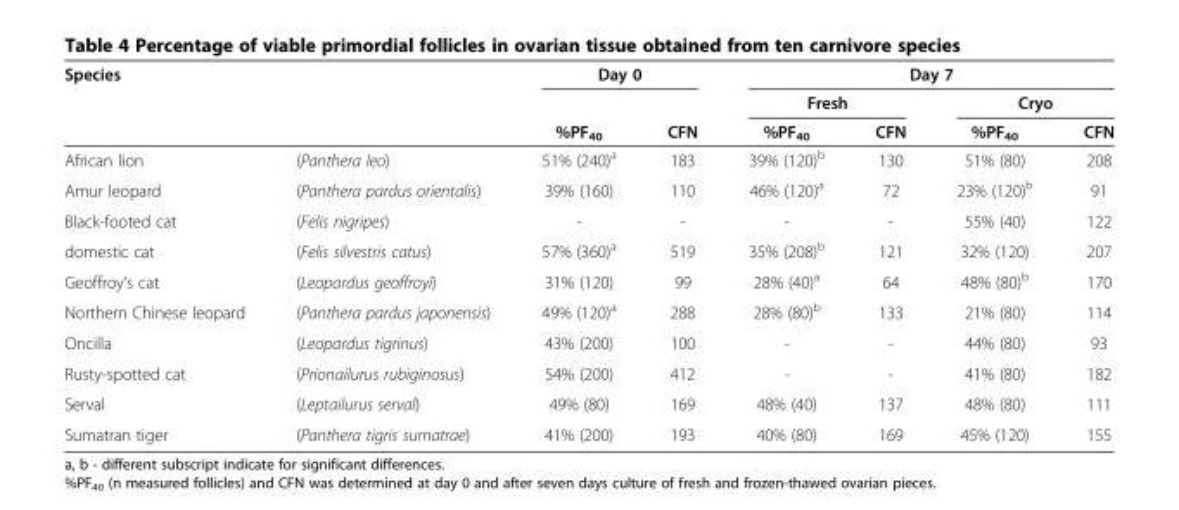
<table><thead><tr><td colspan="2">Species</td><td colspan="2">Day 0</td><td colspan="4">Day 7</td></tr><tr><td rowspan="2"></td><td rowspan="2"></td><td rowspan="2">%PF<sub>40</sub></td><td rowspan="2">CFN</td><td colspan="2">Fresh</td><td colspan="2">Cryo</td></tr><tr><td>%PF<sub>40</sub></td><td>CFN</td><td>%PF<sub>40</sub></td><td>CFN</td></tr></thead><tbody><tr><td>African lion</td><td>(Panthera leo)</td><td>51% (240)<sup>a</sup></td><td>183</td><td>39% (120)<sup>b</sup></td><td>130</td><td>51% (80)</td><td>208</td></tr><tr><td>Amur leopard</td><td>(Panthera pardus orientalis)</td><td>39% (160)</td><td>110</td><td>46% (120)<sup>a</sup></td><td>72</td><td>23% (120)<sup>b</sup></td><td>91</td></tr><tr><td>Black-footed cat</td><td>(Felis nigripes)</td><td>-</td><td>-</td><td>-</td><td>-</td><td>55% (40)</td><td>122</td></tr><tr><td>domestic cat</td><td>(Felis silvestris catus)</td><td>57% (360)<sup>a</sup></td><td>519</td><td>35% (208)<sup>b</sup></td><td>121</td><td>32% (120)</td><td>207</td></tr><tr><td>Geoffroy’s cat</td><td>(Leopardus geoffroyi)</td><td>31% (120)</td><td>99</td><td>28% (40)<sup>a</sup></td><td>64</td><td>48% (80)<sup>b</sup></td><td>170</td></tr><tr><td>Northern Chinese leopard</td><td>(Panthera pardus japonensis)</td><td>49% (120)<sup>a</sup></td><td>288</td><td>28% (80)<sup>b</sup></td><td>133</td><td>21% (80)</td><td>114</td></tr><tr><td>Oncilla</td><td>(Leopardus tigrinus)</td><td>43% (200)</td><td>100</td><td>-</td><td>-</td><td>44% (80)</td><td>93</td></tr><tr><td>Rusty-spotted cat</td><td>(Prionailurus rubiginosus)</td><td>54% (200)</td><td>412</td><td>-</td><td>-</td><td>41% (80)</td><td>182</td></tr><tr><td>Serval</td><td>(Leptailurus serval)</td><td>49% (80)</td><td>169</td><td>48% (40)</td><td>137</td><td>48% (80)</td><td>111</td></tr><tr><td>Sumatran tiger</td><td>(Panthera tigris sumatrae)</td><td>41% (200)</td><td>193</td><td>40% (80)</td><td>169</td><td>45% (120)</td><td>155</td></tr></tbody></table>